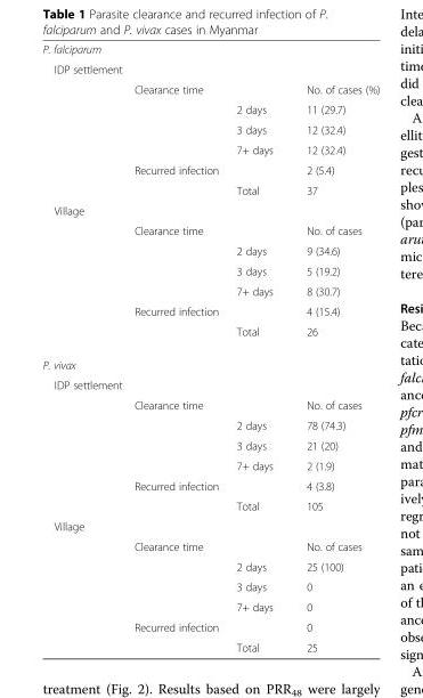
<table><tbody><tr><td colspan="4">P. falciparum</td></tr><tr><td colspan="4">IDP settlement</td></tr><tr><td></td><td colspan="2">Clearance time</td><td>No. of cases (%)</td></tr><tr><td></td><td></td><td>2 days</td><td>11 (29.7)</td></tr><tr><td></td><td></td><td>3 days</td><td>12 (32.4)</td></tr><tr><td></td><td></td><td>7+ days</td><td>12 (32.4)</td></tr><tr><td></td><td colspan="2">Recurred infection</td><td>2 (5.4)</td></tr><tr><td></td><td></td><td>Total</td><td>37</td></tr><tr><td colspan="4">Village</td></tr><tr><td></td><td colspan="2">Clearance time</td><td>No. of cases</td></tr><tr><td></td><td></td><td>2 days</td><td>9 (34.6)</td></tr><tr><td></td><td></td><td>3 days</td><td>5 (19.2)</td></tr><tr><td></td><td></td><td>7+ days</td><td>8 (30.7)</td></tr><tr><td></td><td colspan="2">Recurred infection</td><td>4 (15.4)</td></tr><tr><td></td><td></td><td>Total</td><td>26</td></tr><tr><td colspan="4">P. vivax</td></tr><tr><td colspan="4">IDP settlement</td></tr><tr><td></td><td>Clearance time</td><td></td><td>No. of cases</td></tr><tr><td></td><td></td><td>2 days</td><td>78 (74.3)</td></tr><tr><td></td><td></td><td>3 days</td><td>21 (20)</td></tr><tr><td></td><td></td><td>7+ days</td><td>2 (1.9)</td></tr><tr><td></td><td colspan="2">Recurred infection</td><td>4 (3.8)</td></tr><tr><td></td><td></td><td>Total</td><td>105</td></tr><tr><td colspan="4">Village</td></tr><tr><td></td><td colspan="2">Clearance time</td><td>No. of cases</td></tr><tr><td></td><td></td><td>2 days</td><td>25 (100)</td></tr><tr><td></td><td></td><td>3 days</td><td>0</td></tr><tr><td></td><td></td><td>7+ days</td><td>0</td></tr><tr><td></td><td colspan="2">Recurred infection</td><td>0</td></tr><tr><td></td><td></td><td>Total</td><td>25</td></tr></tbody></table>